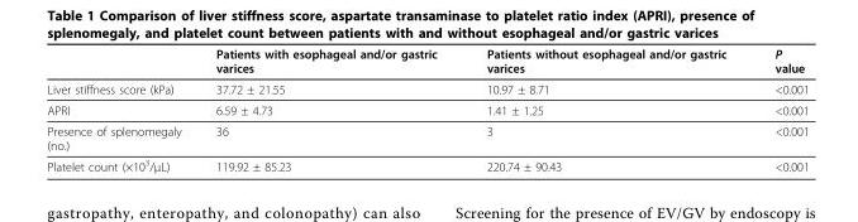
<table><thead><tr><td></td><td>Patients with esophageal and/or gastric varices</td><td>Patients without esophageal and/or gastric varices</td><td>P value</td></tr></thead><tbody><tr><td>Liver stiffness score (kPa)</td><td>37.72 ± 21.55</td><td>10.97 ± 8.71</td><td>&lt;0.001</td></tr><tr><td>APRI</td><td>6.59 ± 4.73</td><td>1.41 ± 1.25</td><td>&lt;0.001</td></tr><tr><td>Presence of splenomegaly (no.)</td><td>36</td><td>3</td><td>&lt;0.001</td></tr><tr><td>Platelet count (×10<sup>3</sup>/μL)</td><td>119.92 ± 85.23</td><td>220.74 ± 90.43</td><td>&lt;0.001</td></tr></tbody></table>